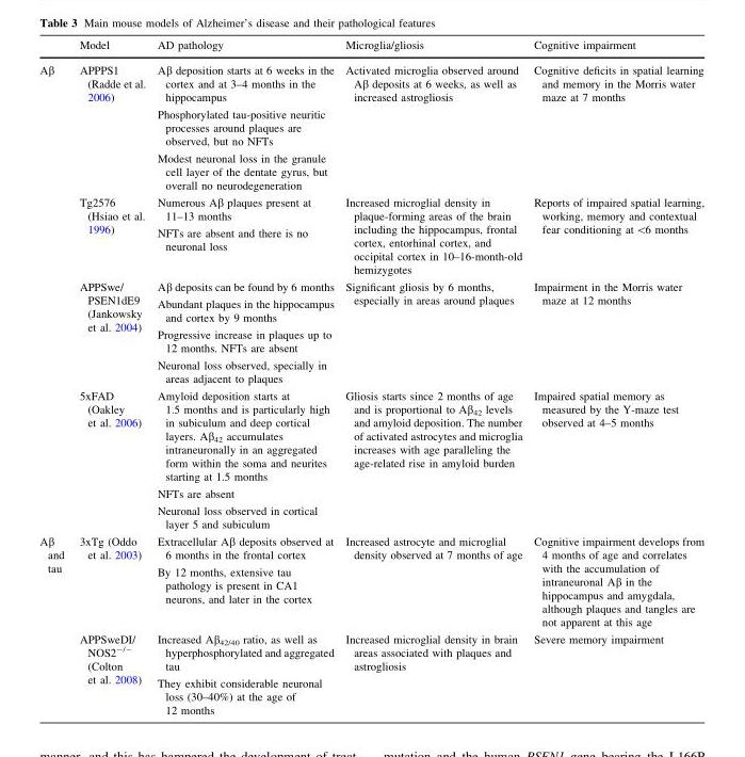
<table><thead><tr><td></td><td>Model</td><td>AD pathology</td><td>Microglia/gliosis</td><td>Cognitive impairment</td></tr></thead><tbody><tr><td rowspan="4">Aβ</td><td>APPPS1 (Radde et al. 2006)</td><td>Aβ deposition starts at 6 weeks in the cortex and at 3–4 months in the hippocampus Phosphorylated tau-positive neuritic processes around plaques are observed, but no NFTs Modest neuronal loss in the granule cell layer of the dentate gyrus, but overall no neurodegeneration</td><td>Activated microglia observed around Aβ deposits at 6 weeks, as well as increased astrogliosis</td><td>Cognitive deficits in spatial learning and memory in the Morris water maze at 7 months</td></tr><tr><td>Tg2576 (Hsiao et al. 1996)</td><td>Numerous Aβ plaques present at 11–13 months NFTs are absent and there is no neuronal loss</td><td>Increased microglial density in plaque-forming areas of the brain including the hippocampus, frontal cortex, entorhinal cortex, and occipital cortex in 10–16-month-old hemizygotes</td><td>Reports of impaired spatial learning, working, memory and contextual fear conditioning at &lt;6 months</td></tr><tr><td>APPSwe/ PSEN1dE9 (Jankowsky et al. 2004)</td><td>Aβ deposits can be found by 6 months Abundant plaques in the hippocampus and cortex by 9 months Progressive increase in plaques up to 12 months. NFTs are absent Neuronal loss observed, specially in areas adjacent to plaques</td><td>Significant gliosis by 6 months, especially in areas around plaques</td><td>Impairment in the Morris water maze at 12 months</td></tr><tr><td>5xFAD (Oakley et al. 2006)</td><td>Amyloid deposition starts at 1.5 months and is particularly high in subiculum and deep cortical layers. Aβ<sub>42</sub> accumulates intraneuronally in an aggregated form within the soma and neurites starting at 1.5 months NFTs are absent Neuronal loss observed in cortical layer 5 and subiculum</td><td>Gliosis starts since 2 months of age and is proportional to Aβ<sub>42</sub> levels and amyloid deposition. The number of activated astrocytes and microglia increases with age paralleling the age-related rise in amyloid burden</td><td>Impaired spatial memory as measured by the Y-maze test observed at 4–5 months</td></tr><tr><td rowspan="2">Aβ and tau</td><td>3xTg (Oddo et al. 2003)</td><td>Extracellular Aβ deposits observed at 6 months in the frontal cortex By 12 months, extensive tau pathology is present in CA1 neurons, and later in the cortex</td><td>Increased astrocyte and microglial density observed at 7 months of age</td><td>Cognitive impairment develops from 4 months of age and correlates with the accumulation of intraneuronal Aβ in the hippocampus and amygdala, although plaques and tangles are not apparent at this age</td></tr><tr><td>APPSweDI/ NOS2<sup>-/-</sup> (Colton et al. 2008)</td><td>Increased Aβ<sub>42/40</sub> ratio, as well as hyperphosphorylated and aggregated tau They exhibit considerable neuronal loss (30–40%) at the age of 12 months</td><td>Increased microglial density in brain areas associated with plaques and astrogliosis</td><td>Severe memory impairment</td></tr></tbody></table>